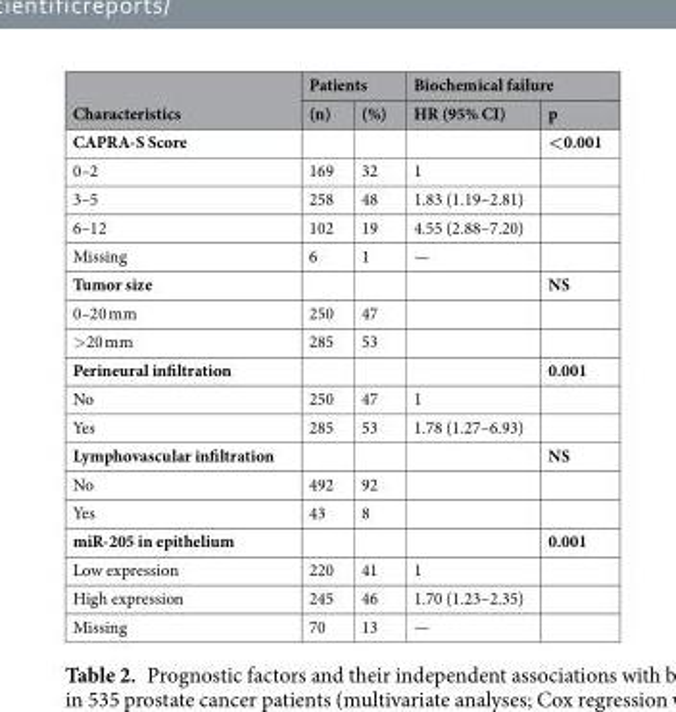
<table><thead><tr><td rowspan="2">Characteristics</td><td colspan="2">Patients</td><td colspan="2">Biochemical failure</td></tr><tr><td>(n)</td><td>(%)</td><td>HR (95% CI)</td><td>p</td></tr></thead><tbody><tr><td>CAPRA-S Score</td><td></td><td></td><td></td><td>&lt;0.001</td></tr><tr><td>0–2</td><td>169</td><td>32</td><td>1</td><td></td></tr><tr><td>3–5</td><td>258</td><td>48</td><td>1.83 (1.19–2.81)</td><td></td></tr><tr><td>6–12</td><td>102</td><td>19</td><td>4.55 (2.88–7.20)</td><td></td></tr><tr><td>Missing</td><td>6</td><td>1</td><td>—</td><td></td></tr><tr><td>Tumor size</td><td></td><td></td><td></td><td>NS</td></tr><tr><td>0–20 mm</td><td>250</td><td>47</td><td></td><td></td></tr><tr><td>&gt;20 mm</td><td>285</td><td>53</td><td></td><td></td></tr><tr><td>Perineural infiltration</td><td></td><td></td><td></td><td>0.001</td></tr><tr><td>No</td><td>250</td><td>47</td><td>1</td><td></td></tr><tr><td>Yes</td><td>285</td><td>53</td><td>1.78 (1.27–6.93)</td><td></td></tr><tr><td>Lymphovascular infiltration</td><td></td><td></td><td></td><td>NS</td></tr><tr><td>No</td><td>492</td><td>92</td><td></td><td></td></tr><tr><td>Yes</td><td>43</td><td>8</td><td></td><td></td></tr><tr><td>miR-205 in epithelium</td><td></td><td></td><td></td><td>0.001</td></tr><tr><td>Low expression</td><td>220</td><td>41</td><td>1</td><td></td></tr><tr><td>High expression</td><td>245</td><td>46</td><td>1.70 (1.23–2.35)</td><td></td></tr><tr><td>Missing</td><td>70</td><td>13</td><td>—</td><td></td></tr></tbody></table>